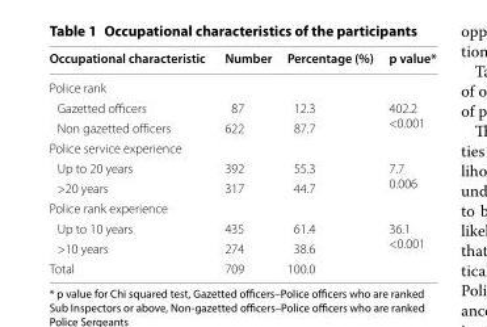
<table><thead><tr><td>Occupational characteristic</td><td>Number</td><td>Percentage (%)</td><td>p value*</td></tr></thead><tbody><tr><td colspan="4">Police rank</td></tr><tr><td>Gazetted officers</td><td>87</td><td>12.3</td><td rowspan="2">402.2 &lt;0.001</td></tr><tr><td>Non gazetted officers</td><td>622</td><td>87.7</td></tr><tr><td colspan="4">Police service experience</td></tr><tr><td>Up to 20 years</td><td>392</td><td>55.3</td><td rowspan="2">7.7 0.006</td></tr><tr><td>&gt;20 years</td><td>317</td><td>44.7</td></tr><tr><td colspan="4">Police rank experience</td></tr><tr><td>Up to 10 years</td><td>435</td><td>61.4</td><td rowspan="2">36.1 &lt;0.001</td></tr><tr><td>&gt;10 years</td><td>274</td><td>38.6</td></tr><tr><td>Total</td><td>709</td><td>100.0</td><td></td></tr></tbody></table>